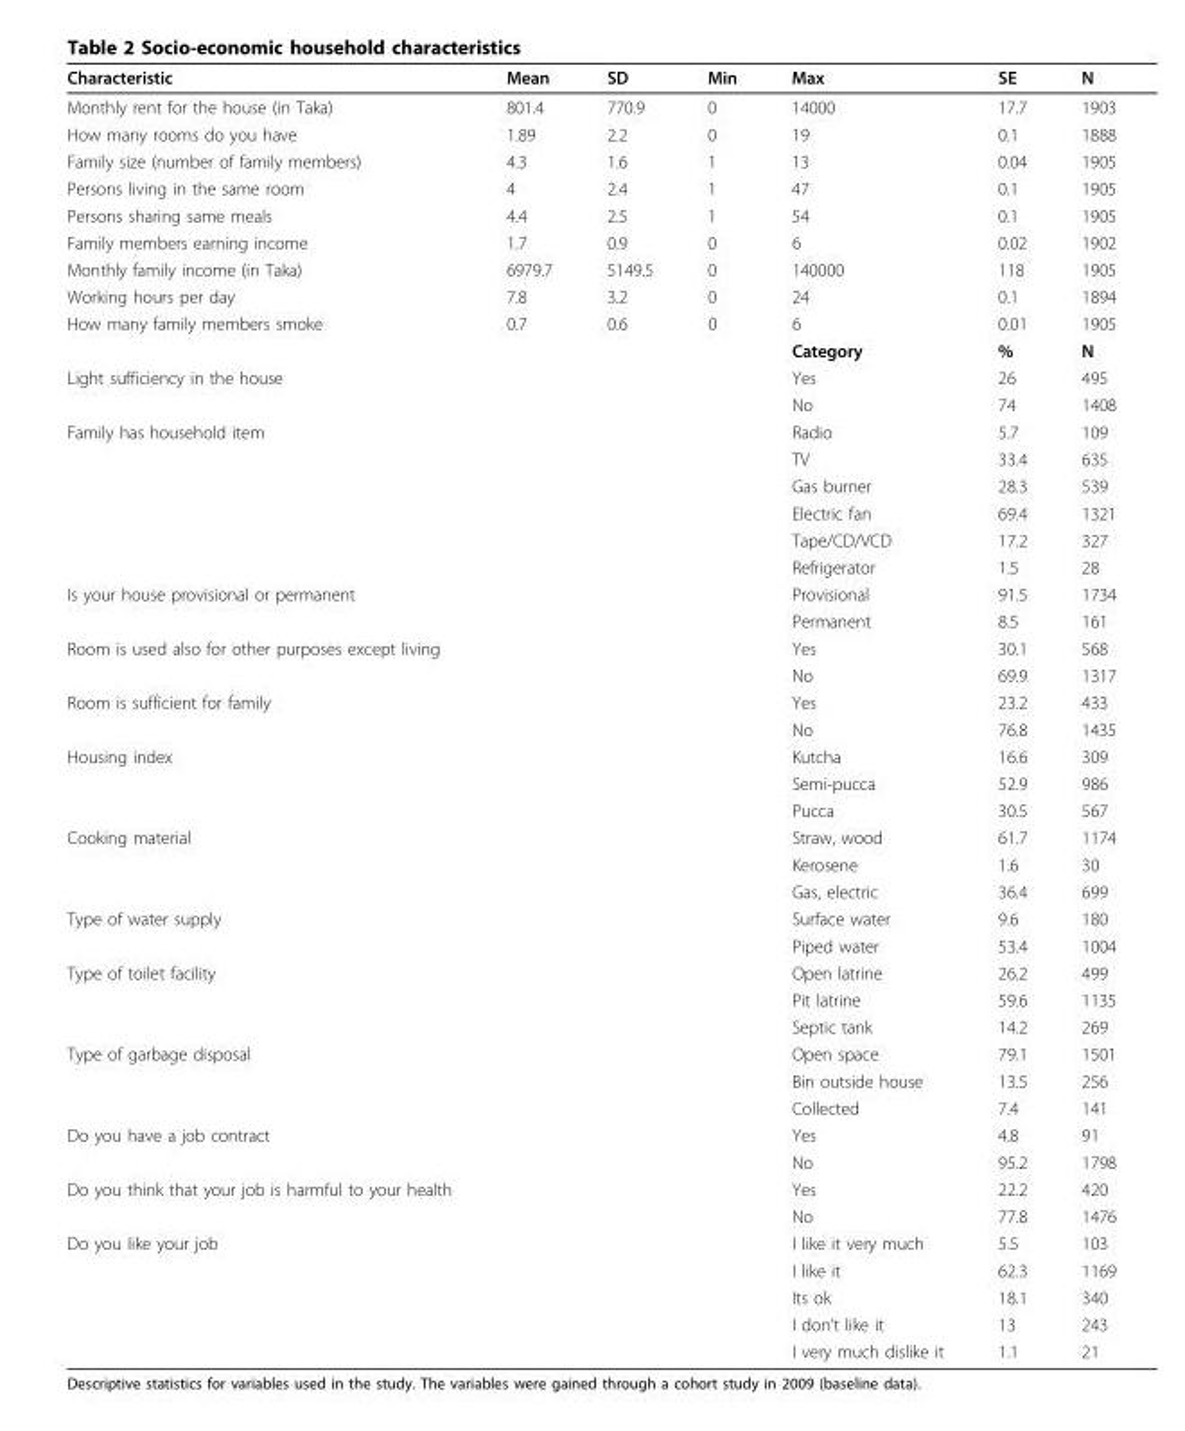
<table><thead><tr><td>Characteristic</td><td>Mean</td><td>SD</td><td>Min</td><td>Max</td><td>SE</td><td>N</td></tr></thead><tbody><tr><td>Monthly rent for the house (in Taka)</td><td>801.4</td><td>770.9</td><td>0</td><td>14000</td><td>17.7</td><td>1903</td></tr><tr><td>How many rooms do you have</td><td>1.89</td><td>2.2</td><td>0</td><td>19</td><td>0.1</td><td>1888</td></tr><tr><td>Family size (number of family members)</td><td>4.3</td><td>1.6</td><td>1</td><td>13</td><td>0.04</td><td>1905</td></tr><tr><td>Persons living in the same room</td><td>4</td><td>2.4</td><td>1</td><td>47</td><td>0.1</td><td>1905</td></tr><tr><td>Persons sharing same meals</td><td>4.4</td><td>2.5</td><td>1</td><td>54</td><td>0.1</td><td>1905</td></tr><tr><td>Family members earning income</td><td>1.7</td><td>0.9</td><td>0</td><td>6</td><td>0.02</td><td>1902</td></tr><tr><td>Monthly family income (in Taka)</td><td>6979.7</td><td>5149.5</td><td>0</td><td>140000</td><td>118</td><td>1905</td></tr><tr><td>Working hours per day</td><td>7.8</td><td>3.2</td><td>0</td><td>24</td><td>0.1</td><td>1894</td></tr><tr><td rowspan="2">How many family members smoke</td><td>0.7</td><td>0.6</td><td>0</td><td>6</td><td>0.01</td><td>1905</td></tr><tr><td></td><td></td><td></td><td>Category</td><td>%</td><td>N</td></tr><tr><td rowspan="2">Light sufficiency in the house</td><td></td><td></td><td></td><td>Yes</td><td>26</td><td>495</td></tr><tr><td></td><td></td><td></td><td>No</td><td>74</td><td>1408</td></tr><tr><td rowspan="6">Family has household item</td><td></td><td></td><td></td><td>Radio</td><td>5.7</td><td>109</td></tr><tr><td></td><td></td><td></td><td>TV</td><td>33.4</td><td>635</td></tr><tr><td></td><td></td><td></td><td>Gas burner</td><td>28.3</td><td>539</td></tr><tr><td></td><td></td><td></td><td>Electric fan</td><td>69.4</td><td>1321</td></tr><tr><td></td><td></td><td></td><td>Tape/CD/VCD</td><td>17.2</td><td>327</td></tr><tr><td></td><td></td><td></td><td>Refrigerator</td><td>1.5</td><td>28</td></tr><tr><td rowspan="2">Is your house provisional or permanent</td><td></td><td></td><td></td><td>Provisional</td><td>91.5</td><td>1734</td></tr><tr><td></td><td></td><td></td><td>Permanent</td><td>8.5</td><td>161</td></tr><tr><td rowspan="2">Room is used also for other purposes except living</td><td></td><td></td><td></td><td>Yes</td><td>30.1</td><td>568</td></tr><tr><td></td><td></td><td></td><td>No</td><td>69.9</td><td>1317</td></tr><tr><td rowspan="2">Room is sufficient for family</td><td></td><td></td><td></td><td>Yes</td><td>23.2</td><td>433</td></tr><tr><td></td><td></td><td></td><td>No</td><td>76.8</td><td>1435</td></tr><tr><td rowspan="3">Housing index</td><td></td><td></td><td></td><td>Kutcha</td><td>16.6</td><td>309</td></tr><tr><td></td><td></td><td></td><td>Semi-pucca</td><td>52.9</td><td>986</td></tr><tr><td></td><td></td><td></td><td>Pucca</td><td>30.5</td><td>567</td></tr><tr><td rowspan="3">Cooking material</td><td></td><td></td><td></td><td>Straw, wood</td><td>61.7</td><td>1174</td></tr><tr><td></td><td></td><td></td><td>Kerosene</td><td>1.6</td><td>30</td></tr><tr><td></td><td></td><td></td><td>Gas, electric</td><td>36.4</td><td>699</td></tr><tr><td rowspan="2">Type of water supply</td><td></td><td></td><td></td><td>Surface water</td><td>9.6</td><td>180</td></tr><tr><td></td><td></td><td></td><td>Piped water</td><td>53.4</td><td>1004</td></tr><tr><td rowspan="3">Type of toilet facility</td><td></td><td></td><td></td><td>Open latrine</td><td>26.2</td><td>499</td></tr><tr><td></td><td></td><td></td><td>Pit latrine</td><td>59.6</td><td>1135</td></tr><tr><td></td><td></td><td></td><td>Septic tank</td><td>14.2</td><td>269</td></tr><tr><td rowspan="3">Type of garbage disposal</td><td></td><td></td><td></td><td>Open space</td><td>79.1</td><td>1501</td></tr><tr><td></td><td></td><td></td><td>Bin outside house</td><td>13.5</td><td>256</td></tr><tr><td></td><td></td><td></td><td>Collected</td><td>7.4</td><td>141</td></tr><tr><td rowspan="2">Do you have a job contract</td><td></td><td></td><td></td><td>Yes</td><td>4.8</td><td>91</td></tr><tr><td></td><td></td><td></td><td>No</td><td>95.2</td><td>1798</td></tr><tr><td rowspan="2">Do you think that your job is harmful to your health</td><td></td><td></td><td></td><td>Yes</td><td>22.2</td><td>420</td></tr><tr><td></td><td></td><td></td><td>No</td><td>77.8</td><td>1476</td></tr><tr><td rowspan="5">Do you like your job</td><td></td><td></td><td></td><td>I like it very much</td><td>5.5</td><td>103</td></tr><tr><td></td><td></td><td></td><td>I like it</td><td>62.3</td><td>1169</td></tr><tr><td></td><td></td><td></td><td>Its ok</td><td>18.1</td><td>340</td></tr><tr><td></td><td></td><td></td><td>I don’t like it</td><td>13</td><td>243</td></tr><tr><td></td><td></td><td></td><td>I very much dislike it</td><td>1.1</td><td>21</td></tr></tbody></table>